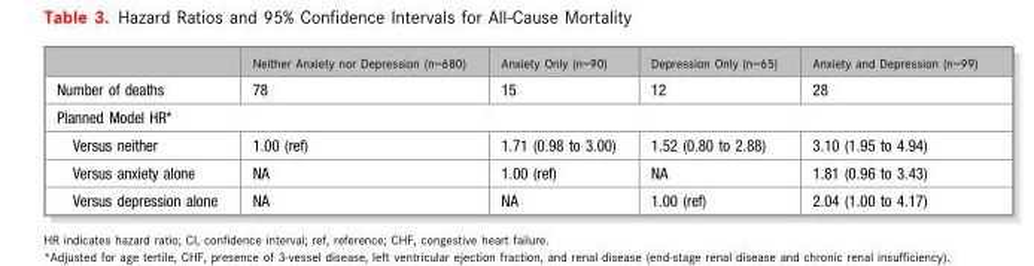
<table><thead><tr><td></td><td>Neither Anxiety nor Depression (n=680)</td><td>Anxiety Only (n=90)</td><td>Depression Only (n=65)</td><td>Anxiety and Depression (n=99)</td></tr></thead><tbody><tr><td>Number of deaths</td><td>78</td><td>15</td><td>12</td><td>28</td></tr><tr><td colspan="5">Planned Model HR*</td></tr><tr><td>Versus neither</td><td>1.00 (ref)</td><td>1.71 (0.98 to 3.00)</td><td>1.52 (0.80 to 2.88)</td><td>3.10 (1.95 to 4.94)</td></tr><tr><td>Versus anxiety alone</td><td>NA</td><td>1.00 (ref)</td><td>NA</td><td>1.81 (0.96 to 3.43)</td></tr><tr><td>Versus depression alone</td><td>NA</td><td>NA</td><td>1.00 (ref)</td><td>2.04 (1.00 to 4.17)</td></tr></tbody></table>